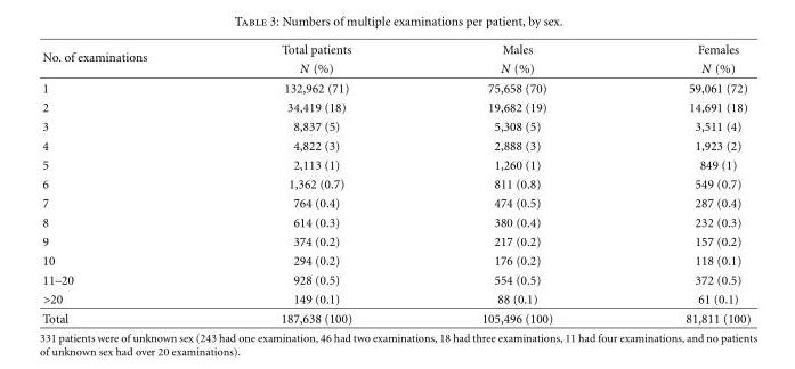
<table><thead><tr><td rowspan="2">No. of examinations</td><td rowspan="2">Total patients N (%)</td><td rowspan="2">Males N (%)</td><td rowspan="2">Females N (%)</td></tr><tr></tr></thead><tbody><tr><td>1</td><td>132,962 (71)</td><td>75,658 (70)</td><td>59,061 (72)</td></tr><tr><td>2</td><td>34,419 (18)</td><td>19,682 (19)</td><td>14,691 (18)</td></tr><tr><td>3</td><td>8,837 (5)</td><td>5,308 (5)</td><td>3,511 (4)</td></tr><tr><td>4</td><td>4,822 (3)</td><td>2,888 (3)</td><td>1,923 (2)</td></tr><tr><td>5</td><td>2,113 (1)</td><td>1,260 (1)</td><td>849 (1)</td></tr><tr><td>6</td><td>1,362 (0.7)</td><td>811 (0.8)</td><td>549 (0.7)</td></tr><tr><td>7</td><td>764 (0.4)</td><td>474 (0.5)</td><td>287 (0.4)</td></tr><tr><td>8</td><td>614 (0.3)</td><td>380 (0.4)</td><td>232 (0.3)</td></tr><tr><td>9</td><td>374 (0.2)</td><td>217 (0.2)</td><td>157 (0.2)</td></tr><tr><td>10</td><td>294 (0.2)</td><td>176 (0.2)</td><td>118 (0.1)</td></tr><tr><td>11–20</td><td>928 (0.5)</td><td>554 (0.5)</td><td>372 (0.5)</td></tr><tr><td>&gt;20</td><td>149 (0.1)</td><td>88 (0.1)</td><td>61 (0.1)</td></tr><tr><td>Total</td><td>187,638 (100)</td><td>105,496 (100)</td><td>81,811 (100)</td></tr></tbody></table>